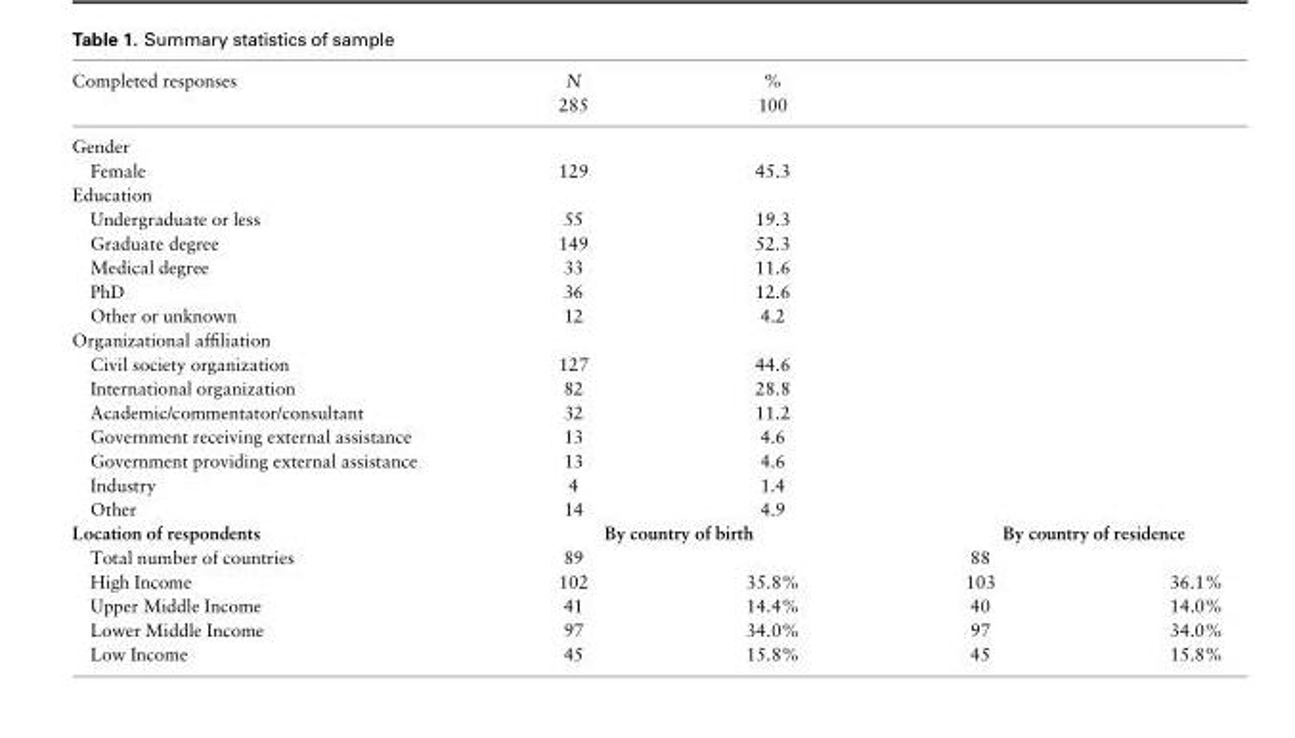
<table><thead><tr><td rowspan="2">Completed responses</td><td rowspan="2">N 285</td><td rowspan="2">% 100</td><td rowspan="2"></td><td rowspan="2"></td></tr><tr></tr></thead><tbody><tr><td colspan="5">Gender</td></tr><tr><td>Female</td><td>129</td><td>45.3</td><td></td><td></td></tr><tr><td colspan="5">Education</td></tr><tr><td>Undergraduate or less</td><td>55</td><td>19.3</td><td></td><td></td></tr><tr><td>Graduate degree</td><td>149</td><td>52.3</td><td></td><td></td></tr><tr><td>Medical degree</td><td>33</td><td>11.6</td><td></td><td></td></tr><tr><td>PhD</td><td>36</td><td>12.6</td><td></td><td></td></tr><tr><td>Other or unknown</td><td>12</td><td>4.2</td><td></td><td></td></tr><tr><td colspan="5">Organizational affiliation</td></tr><tr><td>Civil society organization</td><td>127</td><td>44.6</td><td></td><td></td></tr><tr><td>International organization</td><td>82</td><td>28.8</td><td></td><td></td></tr><tr><td>Academic/commentator/consultant</td><td>32</td><td>11.2</td><td></td><td></td></tr><tr><td>Government receiving external assistance</td><td>13</td><td>4.6</td><td></td><td></td></tr><tr><td>Government providing external assistance</td><td>13</td><td>4.6</td><td></td><td></td></tr><tr><td>Industry</td><td>4</td><td>1.4</td><td></td><td></td></tr><tr><td>Other</td><td>14</td><td>4.9</td><td></td><td></td></tr><tr><td>Location of respondents</td><td colspan="2">By country of birth</td><td colspan="2">By country of residence</td></tr><tr><td>Total number of countries</td><td>89</td><td></td><td>88</td><td></td></tr><tr><td>High Income</td><td>102</td><td>35.8%</td><td>103</td><td>36.1%</td></tr><tr><td>Upper Middle Income</td><td>41</td><td>14.4%</td><td>40</td><td>14.0%</td></tr><tr><td>Lower Middle Income</td><td>97</td><td>34.0%</td><td>97</td><td>34.0%</td></tr><tr><td>Low Income</td><td>45</td><td>15.8%</td><td>45</td><td>15.8%</td></tr></tbody></table>